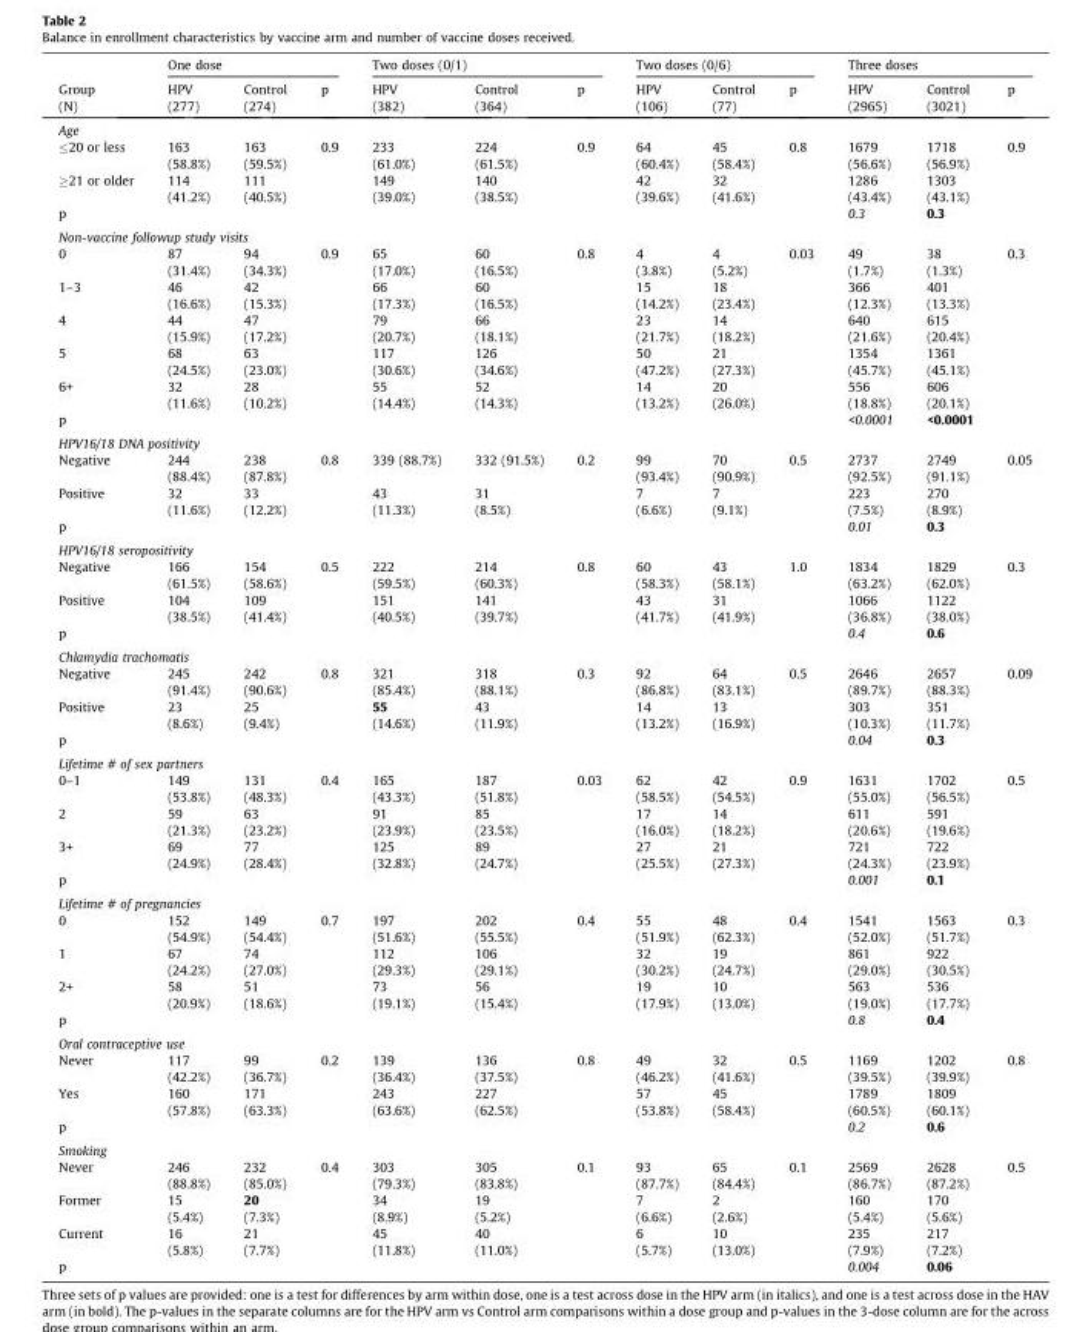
<table><thead><tr><td rowspan="2">Group (N)</td><td colspan="3">One dose</td><td colspan="3">Two doses (0/1)</td><td colspan="3">Two doses (0/6)</td><td colspan="3">Three doses</td></tr><tr><td>HPV (277)</td><td>Control (274)</td><td>p</td><td>HPV (382)</td><td>Control (364)</td><td>p</td><td>HPV (106)</td><td>Control (77)</td><td>p</td><td>HPV (2965)</td><td>Control (3021)</td><td>p</td></tr></thead><tbody><tr><td colspan="13">Age</td></tr><tr><td>≤20 or less</td><td>163 (58.8%)</td><td>163 (59.5%)</td><td>0.9</td><td>233 (61.0%)</td><td>224 (61.5%)</td><td>0.9</td><td>64 (60.4%)</td><td>45 (58.4%)</td><td>0.8</td><td>1679 (56.6%)</td><td>1718 (56.9%)</td><td>0.9</td></tr><tr><td>≥21 or older</td><td>114 (41.2%)</td><td>111 (40.5%)</td><td></td><td>149 (39.0%)</td><td>140 (38.5%)</td><td></td><td>42 (39.6%)</td><td>32 (41.6%)</td><td></td><td>1286 (43.4%)</td><td>1303 (43.1%)</td><td></td></tr><tr><td>p</td><td></td><td></td><td></td><td></td><td></td><td></td><td></td><td></td><td></td><td>0.3</td><td>0.3</td><td></td></tr><tr><td colspan="13">Non-vaccine followup study visits</td></tr><tr><td>0</td><td>87 (31.4%)</td><td>94 (34.3%)</td><td>0.9</td><td>65 (17.0%)</td><td>60 (16.5%)</td><td>0.8</td><td>4 (3.8%)</td><td>4 (5.2%)</td><td>0.03</td><td>49 (1.7%)</td><td>38 (1.3%)</td><td>0.3</td></tr><tr><td>1–3</td><td>46 (16.6%)</td><td>42 (15.3%)</td><td></td><td>66 (17.3%)</td><td>60 (16.5%)</td><td></td><td>15 (14.2%)</td><td>18 (23.4%)</td><td></td><td>366 (12.3%)</td><td>401 (13.3%)</td><td></td></tr><tr><td>4</td><td>44 (15.9%)</td><td>47 (17.2%)</td><td></td><td>79 (20.7%)</td><td>66 (18.1%)</td><td></td><td>23 (21.7%)</td><td>14 (18.2%)</td><td></td><td>640 (21.6%)</td><td>615 (20.4%)</td><td></td></tr><tr><td>5</td><td>68 (24.5%)</td><td>63 (23.0%)</td><td></td><td>117 (30.6%)</td><td>126 (34.6%)</td><td></td><td>50 (47.2%)</td><td>21 (27.3%)</td><td></td><td>1354 (45.7%)</td><td>1361 (45.1%)</td><td></td></tr><tr><td>6+</td><td>32 (11.6%)</td><td>28 (10.2%)</td><td></td><td>55 (14.4%)</td><td>52 (14.3%)</td><td></td><td>14 (13.2%)</td><td>20 (26.0%)</td><td></td><td>556 (18.8%)</td><td>606 (20.1%)</td><td></td></tr><tr><td>p</td><td></td><td></td><td></td><td></td><td></td><td></td><td></td><td></td><td></td><td>&lt;0.0001</td><td>&lt;0.0001</td><td></td></tr><tr><td colspan="13">HPV16/18 DNA positivity</td></tr><tr><td>Negative</td><td>244 (88.4%)</td><td>238 (87.8%)</td><td>0.8</td><td>339 (88.7%)</td><td>332 (91.5%)</td><td>0.2</td><td>99 (93.4%)</td><td>70 (90.9%)</td><td>0.5</td><td>2737 (92.5%)</td><td>2749 (91.1%)</td><td>0.05</td></tr><tr><td>Positive</td><td>32 (11.6%)</td><td>33 (12.2%)</td><td></td><td>43 (11.3%)</td><td>31 (8.5%)</td><td></td><td>7 (6.6%)</td><td>7 (9.1%)</td><td></td><td>223 (7.5%)</td><td>270 (8.9%)</td><td></td></tr><tr><td>p</td><td></td><td></td><td></td><td></td><td></td><td></td><td></td><td></td><td></td><td>0.01</td><td>0.3</td><td></td></tr><tr><td colspan="13">HPV16/18 seropositivity</td></tr><tr><td>Negative</td><td>166 (61.5%)</td><td>154 (58.6%)</td><td>0.5</td><td>222 (59.5%)</td><td>214 (60.3%)</td><td>0.8</td><td>60 (58.3%)</td><td>43 (58.1%)</td><td>1.0</td><td>1834 (63.2%)</td><td>1829 (62.0%)</td><td>0.3</td></tr><tr><td>Positive</td><td>104 (38.5%)</td><td>109 (41.4%)</td><td></td><td>151 (40.5%)</td><td>141 (39.7%)</td><td></td><td>43 (41.7%)</td><td>31 (41.9%)</td><td></td><td>1066 (36.8%)</td><td>1122 (38.0%)</td><td></td></tr><tr><td>p</td><td></td><td></td><td></td><td></td><td></td><td></td><td></td><td></td><td></td><td>0.4</td><td>0.6</td><td></td></tr><tr><td colspan="13">Chlamydia trachomatis</td></tr><tr><td>Negative</td><td>245 (91.4%)</td><td>242 (90.6%)</td><td>0.8</td><td>321 (85.4%)</td><td>318 (88.1%)</td><td>0.3</td><td>92 (86.8%)</td><td>64 (83.1%)</td><td>0.5</td><td>2646 (89.7%)</td><td>2657 (88.3%)</td><td>0.09</td></tr><tr><td>Positive</td><td>23 (8.6%)</td><td>25 (9.4%)</td><td></td><td>55 (14.6%)</td><td>43 (11.9%)</td><td></td><td>14 (13.2%)</td><td>13 (16.9%)</td><td></td><td>303 (10.3%)</td><td>351 (11.7%)</td><td></td></tr><tr><td>p</td><td></td><td></td><td></td><td></td><td></td><td></td><td></td><td></td><td></td><td>0.04</td><td>0.3</td><td></td></tr><tr><td colspan="13">Lifetime # of sex partners</td></tr><tr><td>0–1</td><td>149 (53.8%)</td><td>131 (48.3%)</td><td>0.4</td><td>165 (43.3%)</td><td>187 (51.8%)</td><td>0.03</td><td>62 (58.5%)</td><td>42 (54.5%)</td><td>0.9</td><td>1631 (55.0%)</td><td>1702 (56.5%)</td><td>0.5</td></tr><tr><td>2</td><td>59 (21.3%)</td><td>63 (23.2%)</td><td></td><td>91 (23.9%)</td><td>85 (23.5%)</td><td></td><td>17 (16.0%)</td><td>14 (18.2%)</td><td></td><td>611 (20.6%)</td><td>591 (19.6%)</td><td></td></tr><tr><td>3+</td><td>69 (24.9%)</td><td>77 (28.4%)</td><td></td><td>125 (32.8%)</td><td>89 (24.7%)</td><td></td><td>27 (25.5%)</td><td>21 (27.3%)</td><td></td><td>721 (24.3%)</td><td>722 (23.9%)</td><td></td></tr><tr><td>p</td><td></td><td></td><td></td><td></td><td></td><td></td><td></td><td></td><td></td><td>0.001</td><td>0.1</td><td></td></tr><tr><td colspan="13">Lifetime # of pregnancies</td></tr><tr><td>0</td><td>152 (54.9%)</td><td>149 (54.4%)</td><td>0.7</td><td>197 (51.6%)</td><td>202 (55.5%)</td><td>0.4</td><td>55 (51.9%)</td><td>48 (62.3%)</td><td>0.4</td><td>1541 (52.0%)</td><td>1563 (51.7%)</td><td>0.3</td></tr><tr><td>1</td><td>67 (24.2%)</td><td>74 (27.0%)</td><td></td><td>112 (29.3%)</td><td>106 (29.1%)</td><td></td><td>32 (30.2%)</td><td>19 (24.7%)</td><td></td><td>861 (29.0%)</td><td>922 (30.5%)</td><td></td></tr><tr><td>2+</td><td>58 (20.9%)</td><td>51 (18.6%)</td><td></td><td>73 (19.1%)</td><td>56 (15.4%)</td><td></td><td>19 (17.9%)</td><td>10 (13.0%)</td><td></td><td>563 (19.0%)</td><td>536 (17.7%)</td><td></td></tr><tr><td>p</td><td></td><td></td><td></td><td></td><td></td><td></td><td></td><td></td><td></td><td>0.8</td><td>0.4</td><td></td></tr><tr><td colspan="13">Oral contraceptive use</td></tr><tr><td>Never</td><td>117 (42.2%)</td><td>99 (36.7%)</td><td>0.2</td><td>139 (36.4%)</td><td>136 (37.5%)</td><td>0.8</td><td>49 (46.2%)</td><td>32 (41.6%)</td><td>0.5</td><td>1169 (39.5%)</td><td>1202 (39.9%)</td><td>0.8</td></tr><tr><td>Yes</td><td>160 (57.8%)</td><td>171 (63.3%)</td><td></td><td>243 (63.6%)</td><td>227 (62.5%)</td><td></td><td>57 (53.8%)</td><td>45 (58.4%)</td><td></td><td>1789 (60.5%)</td><td>1809 (60.1%)</td><td></td></tr><tr><td>p</td><td></td><td></td><td></td><td></td><td></td><td></td><td></td><td></td><td></td><td>0.2</td><td>0.6</td><td></td></tr><tr><td colspan="13">Smoking</td></tr><tr><td>Never</td><td>246 (88.8%)</td><td>232 (85.0%)</td><td>0.4</td><td>303 (79.3%)</td><td>305 (83.8%)</td><td>0.1</td><td>93 (87.7%)</td><td>65 (84.4%)</td><td>0.1</td><td>2569 (86.7%)</td><td>2628 (87.2%)</td><td>0.5</td></tr><tr><td>Former</td><td>15 (5.4%)</td><td>20 (7.3%)</td><td></td><td>34 (8.9%)</td><td>19 (5.2%)</td><td></td><td>7 (6.6%)</td><td>2 (2.6%)</td><td></td><td>160 (5.4%)</td><td>170 (5.6%)</td><td></td></tr><tr><td>Current</td><td>16 (5.8%)</td><td>21 (7.7%)</td><td></td><td>45 (11.8%)</td><td>40 (11.0%)</td><td></td><td>6 (5.7%)</td><td>10 (13.0%)</td><td></td><td>235 (7.9%)</td><td>217 (7.2%)</td><td></td></tr><tr><td>p</td><td></td><td></td><td></td><td></td><td></td><td></td><td></td><td></td><td></td><td>0.004</td><td>0.06</td><td></td></tr></tbody></table>